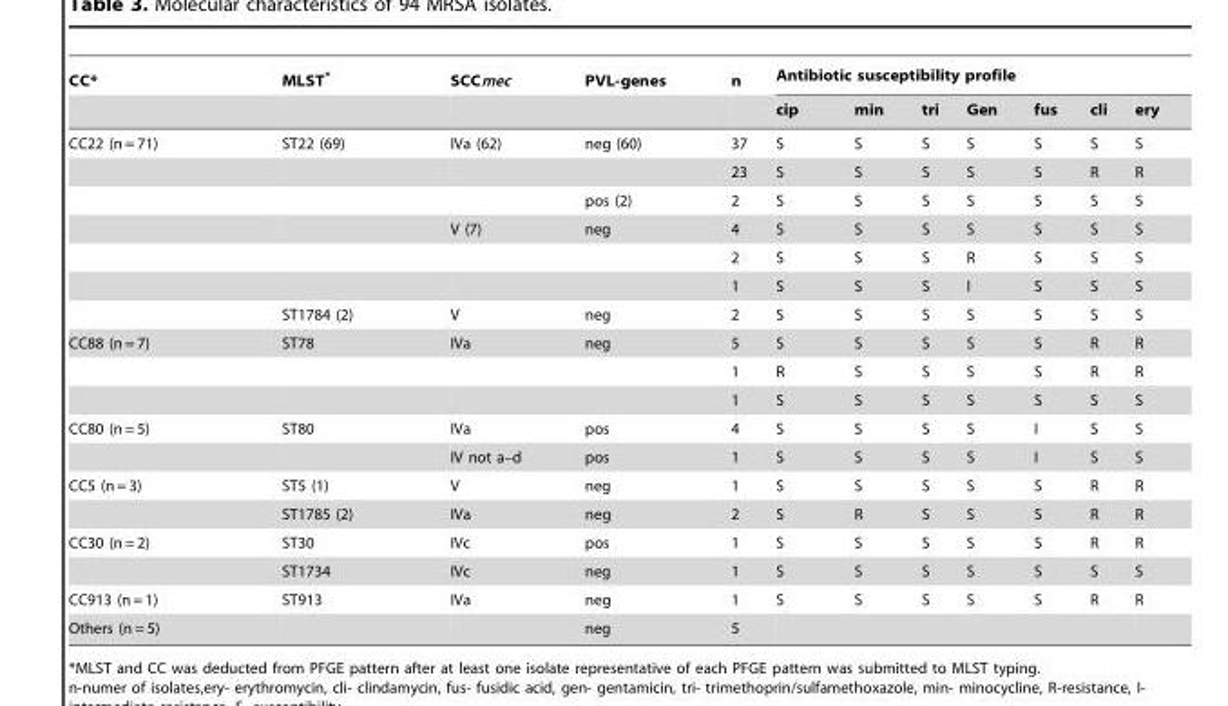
<table><thead><tr><td rowspan="2">CC*</td><td rowspan="2">MLST*</td><td rowspan="2">SCCmec</td><td rowspan="2">PVL-genes</td><td rowspan="2">n</td><td colspan="7">Antibiotic susceptibility profile</td></tr><tr><td>cip</td><td>min</td><td>tri</td><td>Gen</td><td>fus</td><td>cli</td><td>ery</td></tr></thead><tbody><tr><td rowspan="7">CC22 (n = 71)</td><td>ST22 (69)</td><td>IVa (62)</td><td>neg (60)</td><td>37</td><td>S</td><td>S</td><td>S</td><td>S</td><td>S</td><td>S</td><td>S</td></tr><tr><td></td><td></td><td></td><td>23</td><td>S</td><td>S</td><td>S</td><td>S</td><td>S</td><td>R</td><td>R</td></tr><tr><td></td><td></td><td>pos (2)</td><td>2</td><td>S</td><td>S</td><td>S</td><td>S</td><td>S</td><td>S</td><td>S</td></tr><tr><td></td><td>V (7)</td><td>neg</td><td>4</td><td>S</td><td>S</td><td>S</td><td>S</td><td>S</td><td>S</td><td>S</td></tr><tr><td></td><td></td><td></td><td>2</td><td>S</td><td>S</td><td>S</td><td>R</td><td>S</td><td>S</td><td>S</td></tr><tr><td></td><td></td><td></td><td>1</td><td>S</td><td>S</td><td>S</td><td>I</td><td>S</td><td>S</td><td>S</td></tr><tr><td>ST1784 (2)</td><td>V</td><td>neg</td><td>2</td><td>S</td><td>S</td><td>S</td><td>S</td><td>S</td><td>S</td><td>S</td></tr><tr><td rowspan="3">CC88 (n = 7)</td><td>ST78</td><td>IVa</td><td>neg</td><td>5</td><td>S</td><td>S</td><td>S</td><td>S</td><td>S</td><td>R</td><td>R</td></tr><tr><td></td><td></td><td></td><td>1</td><td>R</td><td>S</td><td>S</td><td>S</td><td>S</td><td>R</td><td>R</td></tr><tr><td></td><td></td><td></td><td>1</td><td>S</td><td>S</td><td>S</td><td>S</td><td>S</td><td>S</td><td>S</td></tr><tr><td rowspan="2">CC80 (n = 5)</td><td>ST80</td><td>IVa</td><td>pos</td><td>4</td><td>S</td><td>S</td><td>S</td><td>S</td><td>I</td><td>S</td><td>S</td></tr><tr><td></td><td>IV not a–d</td><td>pos</td><td>1</td><td>S</td><td>S</td><td>S</td><td>S</td><td>I</td><td>S</td><td>S</td></tr><tr><td rowspan="2">CC5 (n = 3)</td><td>ST5 (1)</td><td>V</td><td>neg</td><td>1</td><td>S</td><td>S</td><td>S</td><td>S</td><td>S</td><td>R</td><td>R</td></tr><tr><td>ST1785 (2)</td><td>IVa</td><td>neg</td><td>2</td><td>S</td><td>R</td><td>S</td><td>S</td><td>S</td><td>R</td><td>R</td></tr><tr><td rowspan="2">CC30 (n = 2)</td><td>ST30</td><td>IVc</td><td>pos</td><td>1</td><td>S</td><td>S</td><td>S</td><td>S</td><td>S</td><td>R</td><td>R</td></tr><tr><td>ST1734</td><td>IVc</td><td>neg</td><td>1</td><td>S</td><td>S</td><td>S</td><td>S</td><td>S</td><td>S</td><td>S</td></tr><tr><td>CC913 (n = 1)</td><td>ST913</td><td>IVa</td><td>neg</td><td>1</td><td>S</td><td>S</td><td>S</td><td>S</td><td>S</td><td>R</td><td>R</td></tr><tr><td>Others (n = 5)</td><td></td><td></td><td>neg</td><td>5</td><td></td><td></td><td></td><td></td><td></td><td></td><td></td></tr></tbody></table>